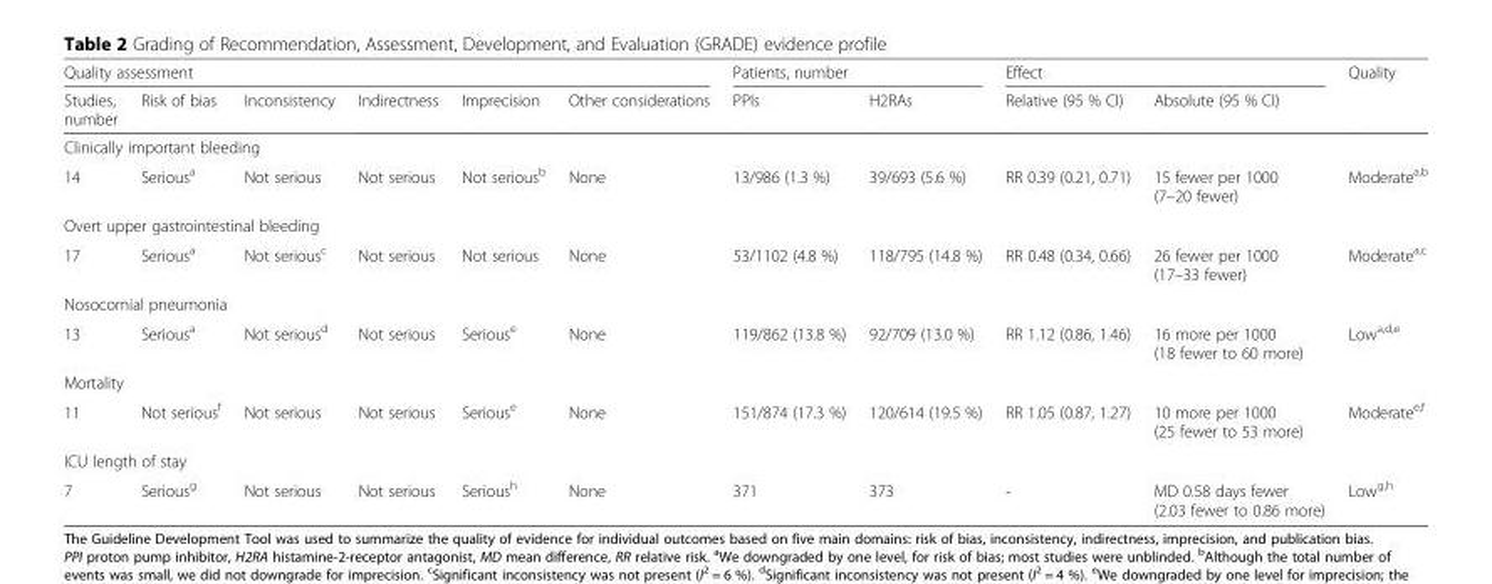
<table><thead><tr><td colspan="6">Quality assessment</td><td colspan="2">Patients, number</td><td colspan="2">Effect</td><td rowspan="2">Quality</td></tr><tr><td>Studies, number</td><td>Risk of bias</td><td>Inconsistency</td><td>Indirectness</td><td>Imprecision</td><td>Other considerations</td><td>PPIs</td><td>H2RAs</td><td>Relative (95 % CI)</td><td>Absolute (95 % CI)</td></tr></thead><tbody><tr><td colspan="11">Clinically important bleeding</td></tr><tr><td>14</td><td>Serious<sup>a</sup></td><td>Not serious</td><td>Not serious</td><td>Not serious<sup>b</sup></td><td>None</td><td>13/986 (1.3 %)</td><td>39/693 (5.6 %)</td><td>RR 0.39 (0.21, 0.71)</td><td>15 fewer per 1000 (7–20 fewer)</td><td>Moderate<sup>a,b</sup></td></tr><tr><td colspan="11">Overt upper gastrointestinal bleeding</td></tr><tr><td>17</td><td>Serious<sup>a</sup></td><td>Not serious<sup>c</sup></td><td>Not serious</td><td>Not serious</td><td>None</td><td>53/1102 (4.8 %)</td><td>118/795 (14.8 %)</td><td>RR 0.48 (0.34, 0.66)</td><td>26 fewer per 1000 (17–33 fewer)</td><td>Moderate<sup>a,c</sup></td></tr><tr><td colspan="11">Nosocomial pneumonia</td></tr><tr><td>13</td><td>Serious<sup>a</sup></td><td>Not serious<sup>d</sup></td><td>Not serious</td><td>Serious<sup>e</sup></td><td>None</td><td>119/862 (13.8 %)</td><td>92/709 (13.0 %)</td><td>RR 1.12 (0.86, 1.46)</td><td>16 more per 1000 (18 fewer to 60 more)</td><td>Low<sup>a,d,e</sup></td></tr><tr><td colspan="11">Mortality</td></tr><tr><td>11</td><td>Not serious<sup>f</sup></td><td>Not serious</td><td>Not serious</td><td>Serious<sup>e</sup></td><td>None</td><td>151/874 (17.3 %)</td><td>120/614 (19.5 %)</td><td>RR 1.05 (0.87, 1.27)</td><td>10 more per 1000 (25 fewer to 53 more)</td><td>Moderate<sup>e,f</sup></td></tr><tr><td colspan="11">ICU length of stay</td></tr><tr><td>7</td><td>Serious<sup>g</sup></td><td>Not serious</td><td>Not serious</td><td>Serious<sup>h</sup></td><td>None</td><td>371</td><td>373</td><td>-</td><td>MD 0.58 days fewer (2.03 fewer to 0.86 more)</td><td>Low<sup>g,h</sup></td></tr></tbody></table>